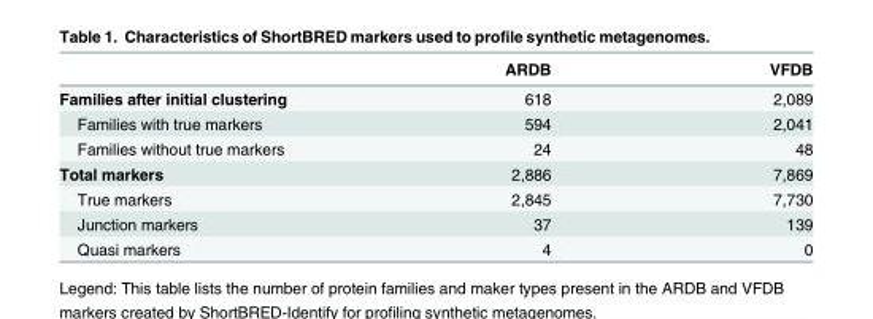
<table><thead><tr><td></td><td>ARDB</td><td>VFDB</td></tr></thead><tbody><tr><td>Families after initial clustering</td><td>618</td><td>2,089</td></tr><tr><td>Families with true markers</td><td>594</td><td>2,041</td></tr><tr><td>Families without true markers</td><td>24</td><td>48</td></tr><tr><td>Total markers</td><td>2,886</td><td>7,869</td></tr><tr><td>True markers</td><td>2,845</td><td>7,730</td></tr><tr><td>Junction markers</td><td>37</td><td>139</td></tr><tr><td>Quasi markers</td><td>4</td><td>0</td></tr></tbody></table>